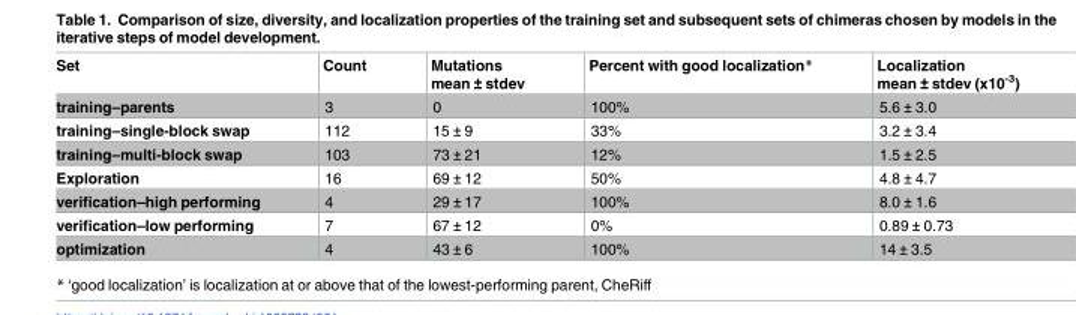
<table><thead><tr><td>Set</td><td>Count</td><td>Mutations mean ± stdev</td><td>Percent with good localization*</td><td>Localization mean ± stdev (x10<sup>-3</sup>)</td></tr></thead><tbody><tr><td>training–parents</td><td>3</td><td>0</td><td>100%</td><td>5.6 ± 3.0</td></tr><tr><td>training–single-block swap</td><td>112</td><td>15 ± 9</td><td>33%</td><td>3.2 ± 3.4</td></tr><tr><td>training–multi-block swap</td><td>103</td><td>73 ± 21</td><td>12%</td><td>1.5 ± 2.5</td></tr><tr><td>Exploration</td><td>16</td><td>69 ± 12</td><td>50%</td><td>4.8 ± 4.7</td></tr><tr><td>verification–high performing</td><td>4</td><td>29 ± 17</td><td>100%</td><td>8.0 ± 1.6</td></tr><tr><td>verification–low performing</td><td>7</td><td>67 ± 12</td><td>0%</td><td>0.89 ± 0.73</td></tr><tr><td>optimization</td><td>4</td><td>43 ± 6</td><td>100%</td><td>14 ± 3.5</td></tr></tbody></table>